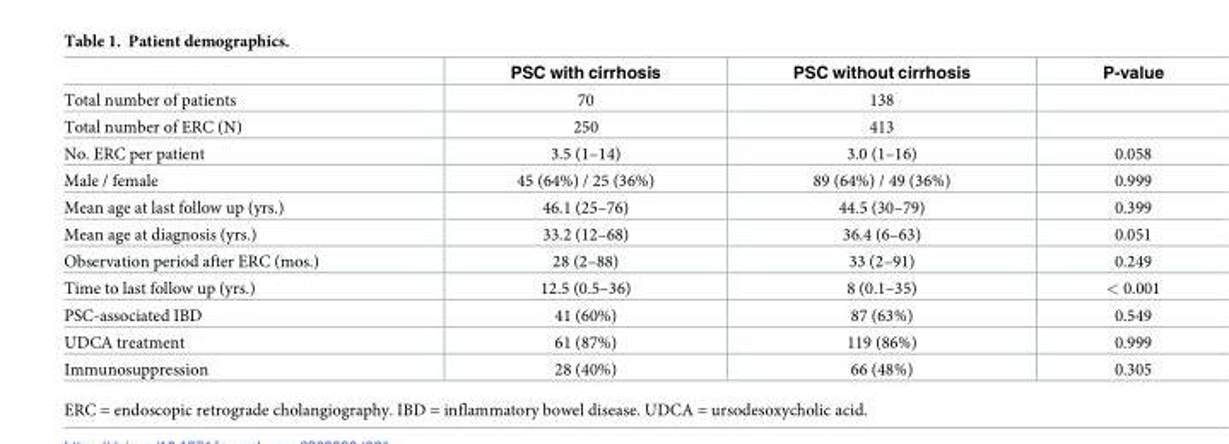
<table><thead><tr><td></td><td>PSC with cirrhosis</td><td>PSC without cirrhosis</td><td>P-value</td></tr></thead><tbody><tr><td>Total number of patients</td><td>70</td><td>138</td><td></td></tr><tr><td>Total number of ERC (N)</td><td>250</td><td>413</td><td></td></tr><tr><td>No. ERC per patient</td><td>3.5 (1–14)</td><td>3.0 (1–16)</td><td>0.058</td></tr><tr><td>Male / female</td><td>45 (64%) / 25 (36%)</td><td>89 (64%) / 49 (36%)</td><td>0.999</td></tr><tr><td>Mean age at last follow up (yrs.)</td><td>46.1 (25–76)</td><td>44.5 (30–79)</td><td>0.399</td></tr><tr><td>Mean age at diagnosis (yrs.)</td><td>33.2 (12–68)</td><td>36.4 (6–63)</td><td>0.051</td></tr><tr><td>Observation period after ERC (mos.)</td><td>28 (2–88)</td><td>33 (2–91)</td><td>0.249</td></tr><tr><td>Time to last follow up (yrs.)</td><td>12.5 (0.5–36)</td><td>8 (0.1–35)</td><td>&lt; 0.001</td></tr><tr><td>PSC-associated IBD</td><td>41 (60%)</td><td>87 (63%)</td><td>0.549</td></tr><tr><td>UDCA treatment</td><td>61 (87%)</td><td>119 (86%)</td><td>0.999</td></tr><tr><td>Immunosuppression</td><td>28 (40%)</td><td>66 (48%)</td><td>0.305</td></tr></tbody></table>